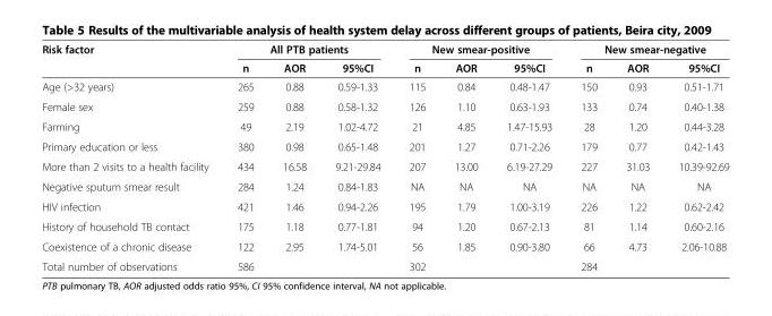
<table><thead><tr><td rowspan="2">Risk factor</td><td colspan="3">All PTB patients</td><td colspan="3">New smear-positive</td><td colspan="3">New smear-negative</td></tr><tr><td>n</td><td>AOR</td><td>95%CI</td><td>n</td><td>AOR</td><td>95%CI</td><td>n</td><td>AOR</td><td>95%CI</td></tr></thead><tbody><tr><td>Age (&gt;32 years)</td><td>265</td><td>0.88</td><td>0.59-1.33</td><td>115</td><td>0.84</td><td>0.48-1.47</td><td>150</td><td>0.93</td><td>0.51-1.71</td></tr><tr><td>Female sex</td><td>259</td><td>0.88</td><td>0.58-1.32</td><td>126</td><td>1.10</td><td>0.63-1.93</td><td>133</td><td>0.74</td><td>0.40-1.38</td></tr><tr><td>Farming</td><td>49</td><td>2.19</td><td>1.02-4.72</td><td>21</td><td>4.85</td><td>1.47-15.93</td><td>28</td><td>1.20</td><td>0.44-3.28</td></tr><tr><td>Primary education or less</td><td>380</td><td>0.98</td><td>0.65-1.48</td><td>201</td><td>1.27</td><td>0.71-2.26</td><td>179</td><td>0.77</td><td>0.42-1.43</td></tr><tr><td>More than 2 visits to a health facility</td><td>434</td><td>16.58</td><td>9.21-29.84</td><td>207</td><td>13.00</td><td>6.19-27.29</td><td>227</td><td>31.03</td><td>10.39-92.69</td></tr><tr><td>Negative sputum smear result</td><td>284</td><td>1.24</td><td>0.84-1.83</td><td>NA</td><td>NA</td><td>NA</td><td>NA</td><td>NA</td><td>NA</td></tr><tr><td>HIV infection</td><td>421</td><td>1.46</td><td>0.94-2.26</td><td>195</td><td>1.79</td><td>1.00-3.19</td><td>226</td><td>1.22</td><td>0.62-2.42</td></tr><tr><td>History of household TB contact</td><td>175</td><td>1.18</td><td>0.77-1.81</td><td>94</td><td>1.20</td><td>0.67-2.13</td><td>81</td><td>1.14</td><td>0.60-2.16</td></tr><tr><td>Coexistence of a chronic disease</td><td>122</td><td>2.95</td><td>1.74-5.01</td><td>56</td><td>1.85</td><td>0.90-3.80</td><td>66</td><td>4.73</td><td>2.06-10.88</td></tr><tr><td>Total number of observations</td><td>586</td><td></td><td></td><td>302</td><td></td><td></td><td>284</td><td></td><td></td></tr></tbody></table>